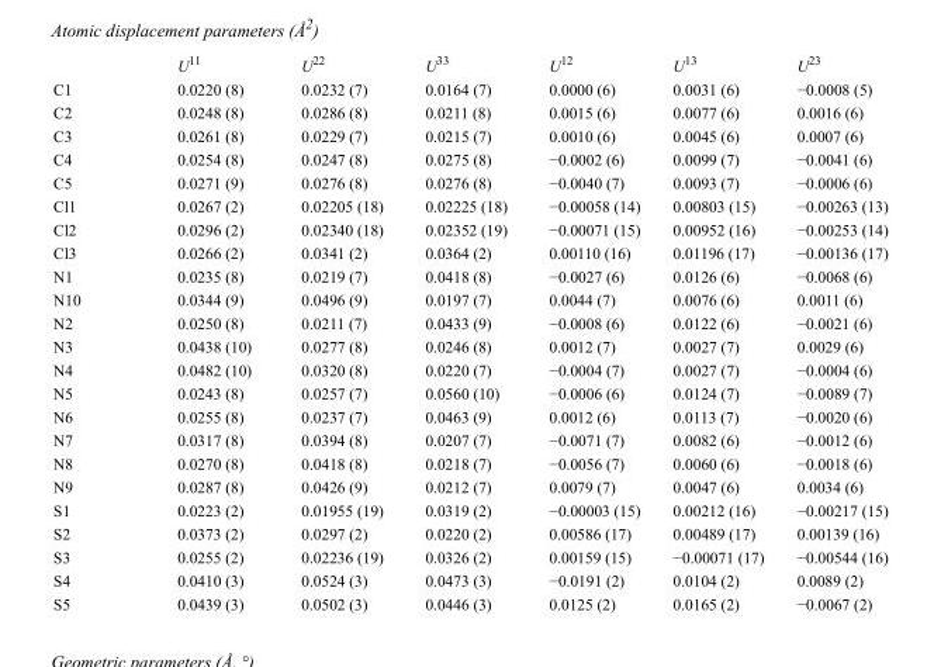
<table><thead><tr><td></td><td>U<sup>11</sup></td><td>U<sup>22</sup></td><td>U<sup>33</sup></td><td>U<sup>12</sup></td><td>U<sup>13</sup></td><td>U<sup>23</sup></td></tr></thead><tbody><tr><td>C1</td><td>0.0220 (8)</td><td>0.0232 (7)</td><td>0.0164 (7)</td><td>0.0000 (6)</td><td>0.0031 (6)</td><td>−0.0008 (5)</td></tr><tr><td>C2</td><td>0.0248 (8)</td><td>0.0286 (8)</td><td>0.0211 (8)</td><td>0.0015 (6)</td><td>0.0077 (6)</td><td>0.0016 (6)</td></tr><tr><td>C3</td><td>0.0261 (8)</td><td>0.0229 (7)</td><td>0.0215 (7)</td><td>0.0010 (6)</td><td>0.0045 (6)</td><td>0.0007 (6)</td></tr><tr><td>C4</td><td>0.0254 (8)</td><td>0.0247 (8)</td><td>0.0275 (8)</td><td>−0.0002 (6)</td><td>0.0099 (7)</td><td>−0.0041 (6)</td></tr><tr><td>C5</td><td>0.0271 (9)</td><td>0.0276 (8)</td><td>0.0276 (8)</td><td>−0.0040 (7)</td><td>0.0093 (7)</td><td>−0.0006 (6)</td></tr><tr><td>Cl1</td><td>0.0267 (2)</td><td>0.02205 (18)</td><td>0.02225 (18)</td><td>−0.00058 (14)</td><td>0.00803 (15)</td><td>−0.00263 (13)</td></tr><tr><td>Cl2</td><td>0.0296 (2)</td><td>0.02340 (18)</td><td>0.02352 (19)</td><td>−0.00071 (15)</td><td>0.00952 (16)</td><td>−0.00253 (14)</td></tr><tr><td>Cl3</td><td>0.0266 (2)</td><td>0.0341 (2)</td><td>0.0364 (2)</td><td>0.00110 (16)</td><td>0.01196 (17)</td><td>−0.00136 (17)</td></tr><tr><td>N1</td><td>0.0235 (8)</td><td>0.0219 (7)</td><td>0.0418 (8)</td><td>−0.0027 (6)</td><td>0.0126 (6)</td><td>−0.0068 (6)</td></tr><tr><td>N10</td><td>0.0344 (9)</td><td>0.0496 (9)</td><td>0.0197 (7)</td><td>0.0044 (7)</td><td>0.0076 (6)</td><td>0.0011 (6)</td></tr><tr><td>N2</td><td>0.0250 (8)</td><td>0.0211 (7)</td><td>0.0433 (9)</td><td>−0.0008 (6)</td><td>0.0122 (6)</td><td>−0.0021 (6)</td></tr><tr><td>N3</td><td>0.0438 (10)</td><td>0.0277 (8)</td><td>0.0246 (8)</td><td>0.0012 (7)</td><td>0.0027 (7)</td><td>0.0029 (6)</td></tr><tr><td>N4</td><td>0.0482 (10)</td><td>0.0320 (8)</td><td>0.0220 (7)</td><td>−0.0004 (7)</td><td>0.0027 (7)</td><td>−0.0004 (6)</td></tr><tr><td>N5</td><td>0.0243 (8)</td><td>0.0257 (7)</td><td>0.0560 (10)</td><td>−0.0006 (6)</td><td>0.0124 (7)</td><td>−0.0089 (7)</td></tr><tr><td>N6</td><td>0.0255 (8)</td><td>0.0237 (7)</td><td>0.0463 (9)</td><td>0.0012 (6)</td><td>0.0113 (7)</td><td>−0.0020 (6)</td></tr><tr><td>N7</td><td>0.0317 (8)</td><td>0.0394 (8)</td><td>0.0207 (7)</td><td>−0.0071 (7)</td><td>0.0082 (6)</td><td>−0.0012 (6)</td></tr><tr><td>N8</td><td>0.0270 (8)</td><td>0.0418 (8)</td><td>0.0218 (7)</td><td>−0.0056 (7)</td><td>0.0060 (6)</td><td>−0.0018 (6)</td></tr><tr><td>N9</td><td>0.0287 (8)</td><td>0.0426 (9)</td><td>0.0212 (7)</td><td>0.0079 (7)</td><td>0.0047 (6)</td><td>0.0034 (6)</td></tr><tr><td>S1</td><td>0.0223 (2)</td><td>0.01955 (19)</td><td>0.0319 (2)</td><td>−0.00003 (15)</td><td>0.00212 (16)</td><td>−0.00217 (15)</td></tr><tr><td>S2</td><td>0.0373 (2)</td><td>0.0297 (2)</td><td>0.0220 (2)</td><td>0.00586 (17)</td><td>0.00489 (17)</td><td>0.00139 (16)</td></tr><tr><td>S3</td><td>0.0255 (2)</td><td>0.02236 (19)</td><td>0.0326 (2)</td><td>0.00159 (15)</td><td>−0.00071 (17)</td><td>−0.00544 (16)</td></tr><tr><td>S4</td><td>0.0410 (3)</td><td>0.0524 (3)</td><td>0.0473 (3)</td><td>−0.0191 (2)</td><td>0.0104 (2)</td><td>0.0089 (2)</td></tr><tr><td>S5</td><td>0.0439 (3)</td><td>0.0502 (3)</td><td>0.0446 (3)</td><td>0.0125 (2)</td><td>0.0165 (2)</td><td>−0.0067 (2)</td></tr></tbody></table>